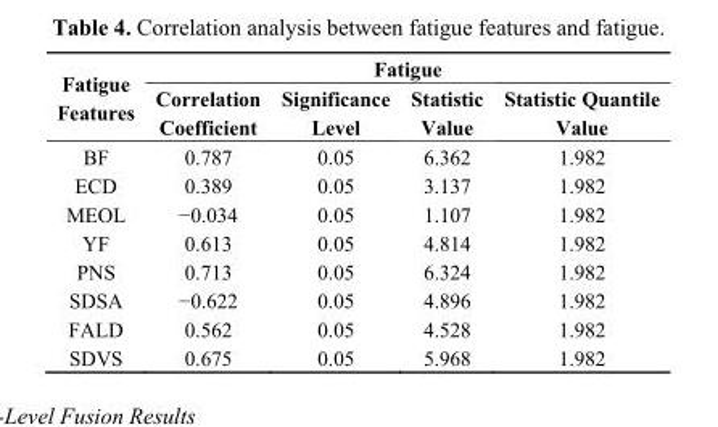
<table><thead><tr><td rowspan="2">Fatigue Features</td><td colspan="4">Fatigue</td></tr><tr><td>Correlation Coefficient</td><td>Significance Level</td><td>Statistic Value</td><td>Statistic Quantile Value</td></tr></thead><tbody><tr><td>BF</td><td>0.787</td><td>0.05</td><td>6.362</td><td>1.982</td></tr><tr><td>ECD</td><td>0.389</td><td>0.05</td><td>3.137</td><td>1.982</td></tr><tr><td>MEOL</td><td>−0.034</td><td>0.05</td><td>1.107</td><td>1.982</td></tr><tr><td>YF</td><td>0.613</td><td>0.05</td><td>4.814</td><td>1.982</td></tr><tr><td>PNS</td><td>0.713</td><td>0.05</td><td>6.324</td><td>1.982</td></tr><tr><td>SDSA</td><td>−0.622</td><td>0.05</td><td>4.896</td><td>1.982</td></tr><tr><td>FALD</td><td>0.562</td><td>0.05</td><td>4.528</td><td>1.982</td></tr><tr><td>SDVS</td><td>0.675</td><td>0.05</td><td>5.968</td><td>1.982</td></tr></tbody></table>